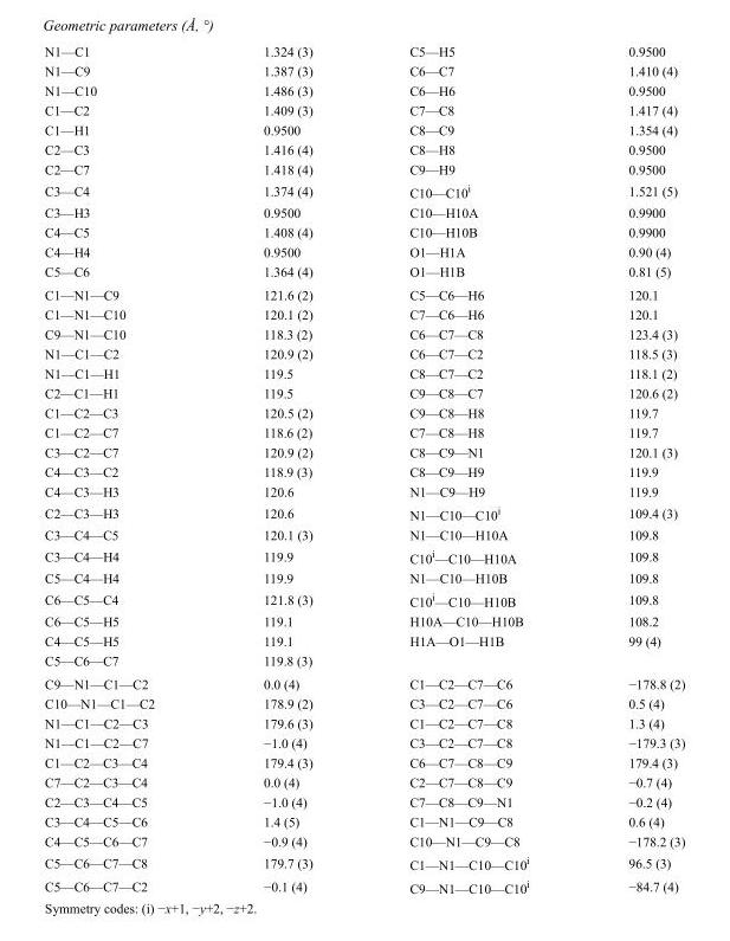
<table><tbody><tr><td>N1—C1</td><td>1.324 (3)</td><td>C5—H5</td><td>0.9500</td></tr><tr><td>N1—C9</td><td>1.387 (3)</td><td>C6—C7</td><td>1.410 (4)</td></tr><tr><td>N1—C10</td><td>1.486 (3)</td><td>C6—H6</td><td>0.9500</td></tr><tr><td>C1—C2</td><td>1.409 (3)</td><td>C7—C8</td><td>1.417 (4)</td></tr><tr><td>C1—H1</td><td>0.9500</td><td>C8—C9</td><td>1.354 (4)</td></tr><tr><td>C2—C3</td><td>1.416 (4)</td><td>C8—H8</td><td>0.9500</td></tr><tr><td>C2—C7</td><td>1.418 (4)</td><td>C9—H9</td><td>0.9500</td></tr><tr><td>C3—C4</td><td>1.374 (4)</td><td>C10—C10<sup>i</sup></td><td>1.521 (5)</td></tr><tr><td>C3—H3</td><td>0.9500</td><td>C10—H10A</td><td>0.9900</td></tr><tr><td>C4—C5</td><td>1.408 (4)</td><td>C10—H10B</td><td>0.9900</td></tr><tr><td>C4—H4</td><td>0.9500</td><td>O1—H1A</td><td>0.90 (4)</td></tr><tr><td>C5—C6</td><td>1.364 (4)</td><td>O1—H1B</td><td>0.81 (5)</td></tr><tr><td>C1—N1—C9</td><td>121.6 (2)</td><td>C5—C6—H6</td><td>120.1</td></tr><tr><td>C1—N1—C10</td><td>120.1 (2)</td><td>C7—C6—H6</td><td>120.1</td></tr><tr><td>C9—N1—C10</td><td>118.3 (2)</td><td>C6—C7—C8</td><td>123.4 (3)</td></tr><tr><td>N1—C1—C2</td><td>120.9 (2)</td><td>C6—C7—C2</td><td>118.5 (3)</td></tr><tr><td>N1—C1—H1</td><td>119.5</td><td>C8—C7—C2</td><td>118.1 (2)</td></tr><tr><td>C2—C1—H1</td><td>119.5</td><td>C9—C8—C7</td><td>120.6 (2)</td></tr><tr><td>C1—C2—C3</td><td>120.5 (2)</td><td>C9—C8—H8</td><td>119.7</td></tr><tr><td>C1—C2—C7</td><td>118.6 (2)</td><td>C7—C8—H8</td><td>119.7</td></tr><tr><td>C3—C2—C7</td><td>120.9 (2)</td><td>C8—C9—N1</td><td>120.1 (3)</td></tr><tr><td>C4—C3—C2</td><td>118.9 (3)</td><td>C8—C9—H9</td><td>119.9</td></tr><tr><td>C4—C3—H3</td><td>120.6</td><td>N1—C9—H9</td><td>119.9</td></tr><tr><td>C2—C3—H3</td><td>120.6</td><td>N1—C10—C10<sup>i</sup></td><td>109.4 (3)</td></tr><tr><td>C3—C4—C5</td><td>120.1 (3)</td><td>N1—C10—H10A</td><td>109.8</td></tr><tr><td>C3—C4—H4</td><td>119.9</td><td>C10<sup>i</sup>—C10—H10A</td><td>109.8</td></tr><tr><td>C5—C4—H4</td><td>119.9</td><td>N1—C10—H10B</td><td>109.8</td></tr><tr><td>C6—C5—C4</td><td>121.8 (3)</td><td>C10<sup>i</sup>—C10—H10B</td><td>109.8</td></tr><tr><td>C6—C5—H5</td><td>119.1</td><td>H10A—C10—H10B</td><td>108.2</td></tr><tr><td>C4—C5—H5</td><td>119.1</td><td>H1A—O1—H1B</td><td>99 (4)</td></tr><tr><td>C5—C6—C7</td><td>119.8 (3)</td><td></td><td></td></tr><tr><td>C9—N1—C1—C2</td><td>0.0 (4)</td><td>C1—C2—C7—C6</td><td>−178.8 (2)</td></tr><tr><td>C10—N1—C1—C2</td><td>178.9 (2)</td><td>C3—C2—C7—C6</td><td>0.5 (4)</td></tr><tr><td>N1—C1—C2—C3</td><td>179.6 (3)</td><td>C1—C2—C7—C8</td><td>1.3 (4)</td></tr><tr><td>N1—C1—C2—C7</td><td>−1.0 (4)</td><td>C3—C2—C7—C8</td><td>−179.3 (3)</td></tr><tr><td>C1—C2—C3—C4</td><td>179.4 (3)</td><td>C6—C7—C8—C9</td><td>179.4 (3)</td></tr><tr><td>C7—C2—C3—C4</td><td>0.0 (4)</td><td>C2—C7—C8—C9</td><td>−0.7 (4)</td></tr><tr><td>C2—C3—C4—C5</td><td>−1.0 (4)</td><td>C7—C8—C9—N1</td><td>−0.2 (4)</td></tr><tr><td>C3—C4—C5—C6</td><td>1.4 (5)</td><td>C1—N1—C9—C8</td><td>0.6 (4)</td></tr><tr><td>C4—C5—C6—C7</td><td>−0.9 (4)</td><td>C10—N1—C9—C8</td><td>−178.2 (3)</td></tr><tr><td>C5—C6—C7—C8</td><td>179.7 (3)</td><td>C1—N1—C10—C10<sup>i</sup></td><td>96.5 (3)</td></tr><tr><td>C5—C6—C7—C2</td><td>−0.1 (4)</td><td>C9—N1—C10—C10<sup>i</sup></td><td>−84.7 (4)</td></tr></tbody></table>